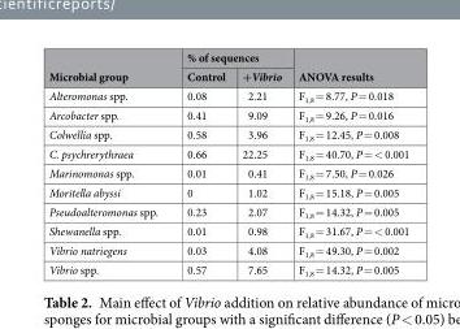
<table><thead><tr><td rowspan="2">Microbial group</td><td colspan="2">% of sequences</td><td rowspan="2">ANOVA results</td></tr><tr><td>Control</td><td>+Vibrio</td></tr></thead><tbody><tr><td>Alteromonas spp.</td><td>0.08</td><td>2.21</td><td>F<sub>1,8</sub> = 8.77, P = 0.018</td></tr><tr><td>Arcobacter spp.</td><td>0.41</td><td>9.09</td><td>F<sub>1,8</sub> = 9.26, P = 0.016</td></tr><tr><td>Colwellia spp.</td><td>0.58</td><td>3.96</td><td>F<sub>1,8</sub> = 12.45, P = 0.008</td></tr><tr><td>C. psychrerythraea</td><td>0.66</td><td>22.25</td><td>F<sub>1,8</sub> = 40.70, P = &lt; 0.001</td></tr><tr><td>Marinomonas spp.</td><td>0.01</td><td>0.41</td><td>F<sub>1,8</sub> = 7.50, P = 0.026</td></tr><tr><td>Moritella abyssi</td><td>0</td><td>1.02</td><td>F<sub>1,8</sub> = 15.18, P = 0.005</td></tr><tr><td>Pseudoalteromonas spp.</td><td>0.23</td><td>2.07</td><td>F<sub>1,8</sub> = 14.32, P = 0.005</td></tr><tr><td>Shewanella spp.</td><td>0.01</td><td>0.98</td><td>F<sub>1,8</sub> = 31.67, P = &lt; 0.001</td></tr><tr><td>Vibrio natriegens</td><td>0.03</td><td>4.08</td><td>F<sub>1,8</sub> = 49.30, P = 0.002</td></tr><tr><td>Vibrio spp.</td><td>0.57</td><td>7.65</td><td>F<sub>1,8</sub> = 14.32, P = 0.005</td></tr></tbody></table>